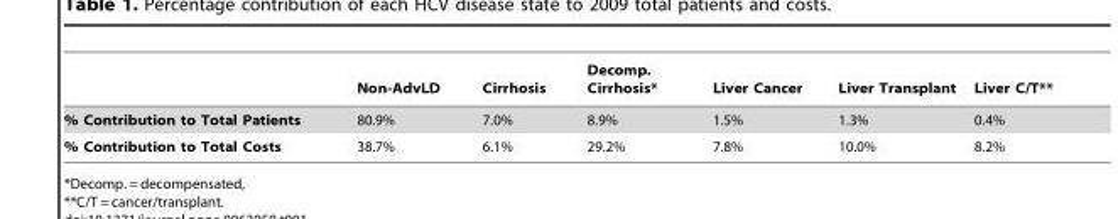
<table><thead><tr><td></td><td>Non-AdvLD</td><td>Cirrhosis</td><td>Decomp. Cirrhosis*</td><td>Liver Cancer</td><td>Liver Transplant</td><td>Liver C/T**</td></tr></thead><tbody><tr><td>% Contribution to Total Patients</td><td>80.9%</td><td>7.0%</td><td>8.9%</td><td>1.5%</td><td>1.3%</td><td>0.4%</td></tr><tr><td>% Contribution to Total Costs</td><td>38.7%</td><td>6.1%</td><td>29.2%</td><td>7.8%</td><td>10.0%</td><td>8.2%</td></tr></tbody></table>